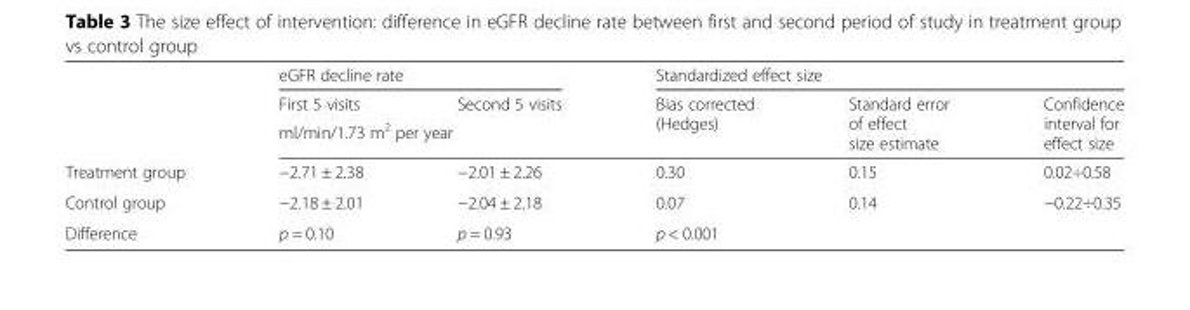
<table><thead><tr><td rowspan="3"></td><td colspan="2">eGFR decline rate</td><td colspan="3">Standardized effect size</td></tr><tr><td>First 5 visits</td><td>Second 5 visits</td><td rowspan="2">Bias corrected (Hedges)</td><td rowspan="2">Standard error of effect size estimate</td><td rowspan="2">Confidence interval for effect size</td></tr><tr><td colspan="2">ml/min/1.73 m<sup>2</sup> per year</td></tr></thead><tbody><tr><td>Treatment group</td><td>−2.71 ± 2.38</td><td>−2.01 ± 2.26</td><td>0.30</td><td>0.15</td><td>0.02÷0.58</td></tr><tr><td>Control group</td><td>−2.18 ± 2.01</td><td>−2.04 ± 2.18</td><td>0.07</td><td>0.14</td><td>−0.22÷0.35</td></tr><tr><td>Difference</td><td>p = 0.10</td><td>p = 0.93</td><td colspan="3">p &lt; 0.001</td></tr></tbody></table>